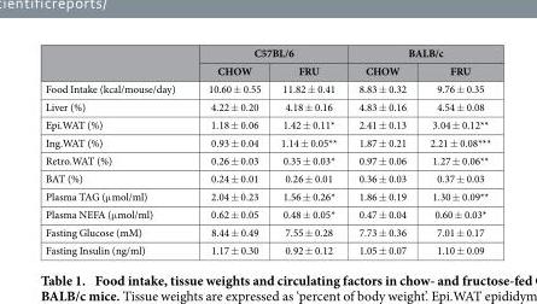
<table><thead><tr><td rowspan="2"></td><td colspan="2">C57BL/6</td><td colspan="2">BALB/c</td></tr><tr><td>CHOW</td><td>FRU</td><td>CHOW</td><td>FRU</td></tr></thead><tbody><tr><td>Food Intake (kcal/mouse/day)</td><td>10.60 ± 0.55</td><td>11.82 ± 0.41</td><td>8.83 ± 0.32</td><td>9.76 ± 0.35</td></tr><tr><td>Liver (%)</td><td>4.22 ± 0.20</td><td>4.18 ± 0.16</td><td>4.83 ± 0.16</td><td>4.54 ± 0.08</td></tr><tr><td>Epi.WAT (%)</td><td>1.18 ± 0.06</td><td>1.42 ± 0.11*</td><td>2.41 ± 0.13</td><td>3.04 ± 0.12**</td></tr><tr><td>Ing.WAT (%)</td><td>0.93 ± 0.04</td><td>1.14 ± 0.05**</td><td>1.87 ± 0.21</td><td>2.21 ± 0.08***</td></tr><tr><td>Retro.WAT (%)</td><td>0.26 ± 0.03</td><td>0.35 ± 0.03*</td><td>0.97 ± 0.06</td><td>1.27 ± 0.06**</td></tr><tr><td>BAT (%)</td><td>0.24 ± 0.01</td><td>0.26 ± 0.01</td><td>0.36 ± 0.03</td><td>0.37 ± 0.03</td></tr><tr><td>Plasma TAG (μ mol/ml)</td><td>2.04 ± 0.23</td><td>1.56 ± 0.26*</td><td>1.86 ± 0.19</td><td>1.30 ± 0.09**</td></tr><tr><td>Plasma NEFA (μ mol/ml)</td><td>0.62 ± 0.05</td><td>0.48 ± 0.05*</td><td>0.47 ± 0.04</td><td>0.60 ± 0.03*</td></tr><tr><td>Fasting Glucose (mM)</td><td>8.44 ± 0.49</td><td>7.55 ± 0.28</td><td>7.73 ± 0.36</td><td>7.01 ± 0.17</td></tr><tr><td>Fasting Insulin (ng/ml)</td><td>1.17 ± 0.30</td><td>0.92 ± 0.12</td><td>1.05 ± 0.07</td><td>1.10 ± 0.09</td></tr></tbody></table>